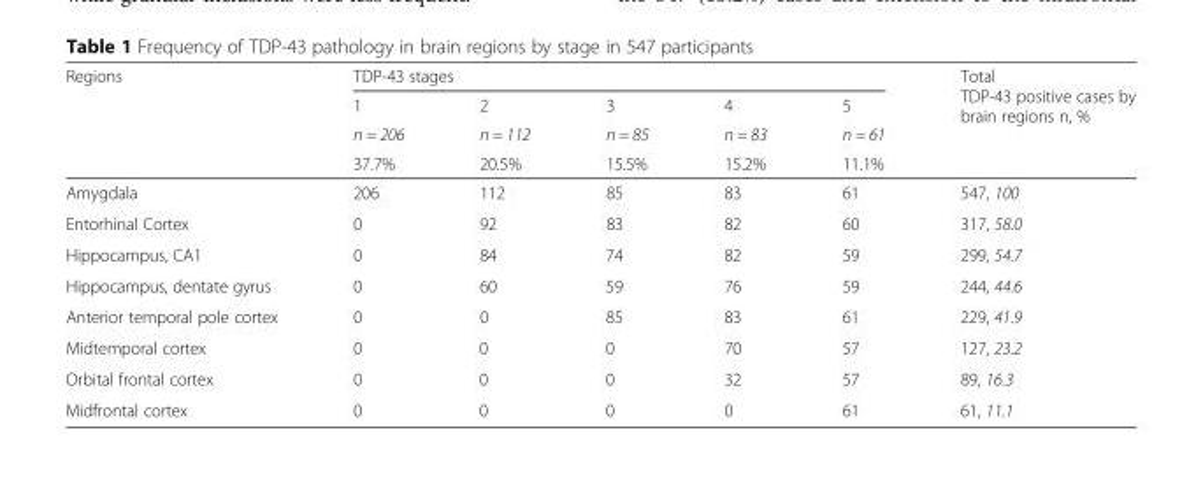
<table><thead><tr><td rowspan="4">Regions</td><td colspan="5">TDP-43 stages</td><td rowspan="4">Total TDP-43 positive cases by brain regions n, %</td></tr><tr><td rowspan="3">1 n = 206 37.7%</td><td rowspan="3">2 n = 112 20.5%</td><td rowspan="3">3 n = 85 15.5%</td><td rowspan="3">4 n = 83 15.2%</td><td rowspan="3">5 n = 61 11.1%</td></tr><tr></tr><tr></tr></thead><tbody><tr><td>Amygdala</td><td>206</td><td>112</td><td>85</td><td>83</td><td>61</td><td>547, 100</td></tr><tr><td>Entorhinal Cortex</td><td>0</td><td>92</td><td>83</td><td>82</td><td>60</td><td>317, 58.0</td></tr><tr><td>Hippocampus, CA1</td><td>0</td><td>84</td><td>74</td><td>82</td><td>59</td><td>299, 54.7</td></tr><tr><td>Hippocampus, dentate gyrus</td><td>0</td><td>60</td><td>59</td><td>76</td><td>59</td><td>244, 44.6</td></tr><tr><td>Anterior temporal pole cortex</td><td>0</td><td>0</td><td>85</td><td>83</td><td>61</td><td>229, 41.9</td></tr><tr><td>Midtemporal cortex</td><td>0</td><td>0</td><td>0</td><td>70</td><td>57</td><td>127, 23.2</td></tr><tr><td>Orbital frontal cortex</td><td>0</td><td>0</td><td>0</td><td>32</td><td>57</td><td>89, 16.3</td></tr><tr><td>Midfrontal cortex</td><td>0</td><td>0</td><td>0</td><td>0</td><td>61</td><td>61, 11.1</td></tr></tbody></table>